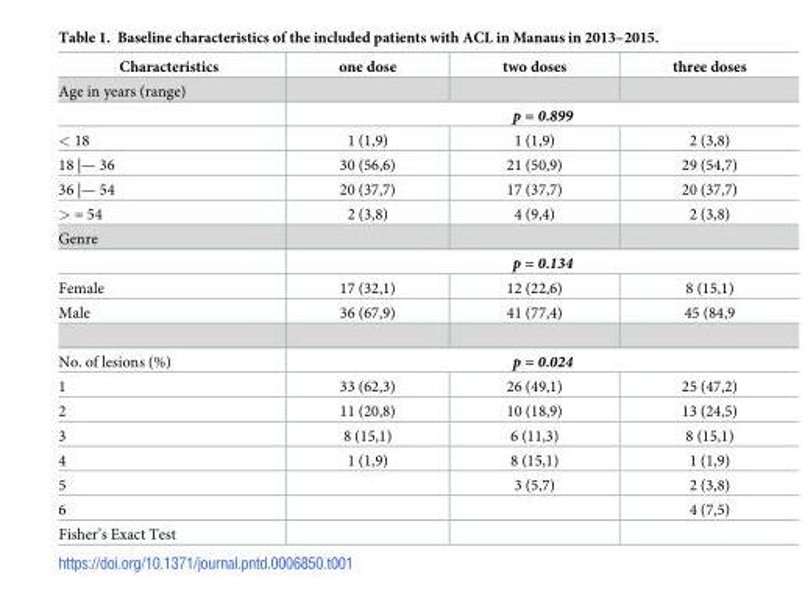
<table><thead><tr><td>Characteristics</td><td>one dose</td><td>two doses</td><td>three doses</td></tr></thead><tbody><tr><td colspan="4">Age in years (range)</td></tr><tr><td></td><td colspan="3">p = 0.899</td></tr><tr><td>&lt; 18</td><td>1 (1,9)</td><td>1 (1,9)</td><td>2 (3,8)</td></tr><tr><td>18 |— 36</td><td>30 (56,6)</td><td>21 (50,9)</td><td>29 (54,7)</td></tr><tr><td>36 |— 54</td><td>20 (37,7)</td><td>17 (37,7)</td><td>20 (37,7)</td></tr><tr><td>&gt; = 54</td><td>2 (3,8)</td><td>4 (9,4)</td><td>2 (3,8)</td></tr><tr><td colspan="4">Genre</td></tr><tr><td></td><td colspan="3">p = 0.134</td></tr><tr><td>Female</td><td>17 (32,1)</td><td>12 (22,6)</td><td>8 (15,1)</td></tr><tr><td>Male</td><td>36 (67,9)</td><td>41 (77,4)</td><td>45 (84,9</td></tr><tr><td>No. of lesions (%)</td><td colspan="3">p = 0.024</td></tr><tr><td>1</td><td>33 (62,3)</td><td>26 (49,1)</td><td>25 (47,2)</td></tr><tr><td>2</td><td>11 (20,8)</td><td>10 (18,9)</td><td>13 (24,5)</td></tr><tr><td>3</td><td>8 (15,1)</td><td>6 (11,3)</td><td>8 (15,1)</td></tr><tr><td>4</td><td>1 (1,9)</td><td>8 (15,1)</td><td>1 (1,9)</td></tr><tr><td>5</td><td></td><td>3 (5,7)</td><td>2 (3,8)</td></tr><tr><td>6</td><td></td><td></td><td>4 (7,5)</td></tr><tr><td>Fisher’s Exact Test</td><td></td><td></td><td></td></tr></tbody></table>